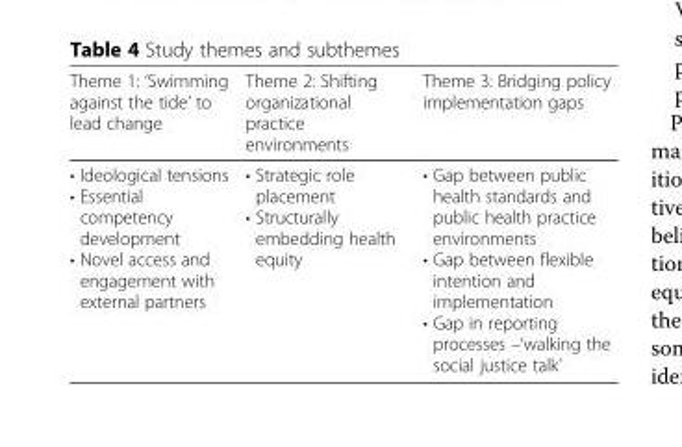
<table><thead><tr><td>Theme 1: ‘Swimming against the tide’ to lead change</td><td>Theme 2: Shifting organizational practice environments</td><td>Theme 3: Bridging policy implementation gaps</td></tr></thead><tbody><tr><td>• Ideological tensions • Essential competency development • Novel access and engagement with external partners</td><td>• Strategic role placement • Structurally embedding health equity</td><td>• Gap between public health standards and public health practice environments • Gap between flexible intention and implementation • Gap in reporting processes –‘walking the social justice talk’</td></tr></tbody></table>